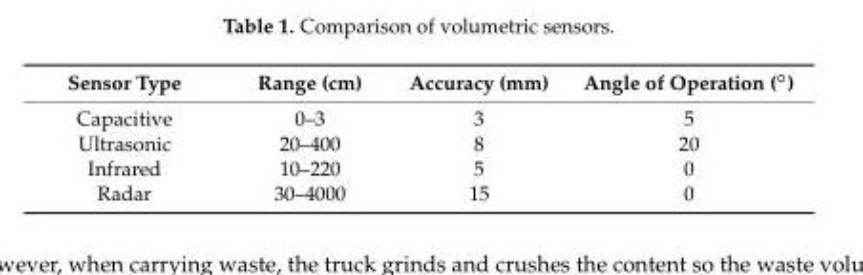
<table><thead><tr><td>Sensor Type</td><td>Range (cm)</td><td>Accuracy (mm)</td><td>Angle of Operation (◦)</td></tr></thead><tbody><tr><td>Capacitive</td><td>0–3</td><td>3</td><td>5</td></tr><tr><td>Ultrasonic</td><td>20–400</td><td>8</td><td>20</td></tr><tr><td>Infrared</td><td>10–220</td><td>5</td><td>0</td></tr><tr><td>Radar</td><td>30–4000</td><td>15</td><td>0</td></tr></tbody></table>